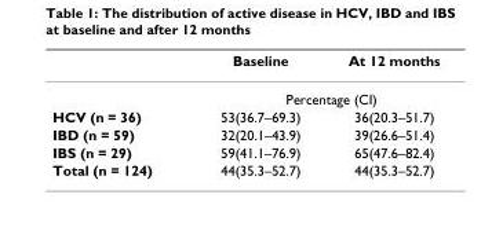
<table><thead><tr><td></td><td>Baseline</td><td>At 12 months</td></tr></thead><tbody><tr><td></td><td colspan="2">Percentage (CI)</td></tr><tr><td>HCV (n = 36)</td><td>53(36.7–69.3)</td><td>36(20.3–51.7)</td></tr><tr><td>IBD (n = 59)</td><td>32(20.1–43.9)</td><td>39(26.6–51.4)</td></tr><tr><td>IBS (n = 29)</td><td>59(41.1–76.9)</td><td>65(47.6–82.4)</td></tr><tr><td>Total (n = 124)</td><td>44(35.3–52.7)</td><td>44(35.3–52.7)</td></tr></tbody></table>